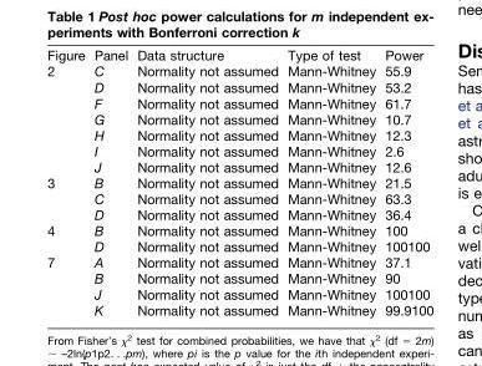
<table><thead><tr><td>Figure</td><td>Panel</td><td>Data structure</td><td>Type of test</td><td>Power</td></tr></thead><tbody><tr><td rowspan="7">2</td><td>C</td><td>Normality not assumed</td><td>Mann-Whitney</td><td>55.9</td></tr><tr><td>D</td><td>Normality not assumed</td><td>Mann-Whitney</td><td>53.2</td></tr><tr><td>F</td><td>Normality not assumed</td><td>Mann-Whitney</td><td>61.7</td></tr><tr><td>G</td><td>Normality not assumed</td><td>Mann-Whitney</td><td>10.7</td></tr><tr><td>H</td><td>Normality not assumed</td><td>Mann-Whitney</td><td>12.3</td></tr><tr><td>I</td><td>Normality not assumed</td><td>Mann-Whitney</td><td>2.6</td></tr><tr><td>J</td><td>Normality not assumed</td><td>Mann-Whitney</td><td>12.6</td></tr><tr><td rowspan="3">3</td><td>B</td><td>Normality not assumed</td><td>Mann-Whitney</td><td>21.5</td></tr><tr><td>C</td><td>Normality not assumed</td><td>Mann-Whitney</td><td>63.3</td></tr><tr><td>D</td><td>Normality not assumed</td><td>Mann-Whitney</td><td>36.4</td></tr><tr><td rowspan="2">4</td><td>B</td><td>Normality not assumed</td><td>Mann-Whitney</td><td>100</td></tr><tr><td>D</td><td>Normality not assumed</td><td>Mann-Whitney</td><td>100100</td></tr><tr><td rowspan="4">7</td><td>A</td><td>Normality not assumed</td><td>Mann-Whitney</td><td>37.1</td></tr><tr><td>B</td><td>Normality not assumed</td><td>Mann-Whitney</td><td>90</td></tr><tr><td>J</td><td>Normality not assumed</td><td>Mann-Whitney</td><td>100100</td></tr><tr><td>K</td><td>Normality not assumed</td><td>Mann-Whitney</td><td>99.9100</td></tr></tbody></table>